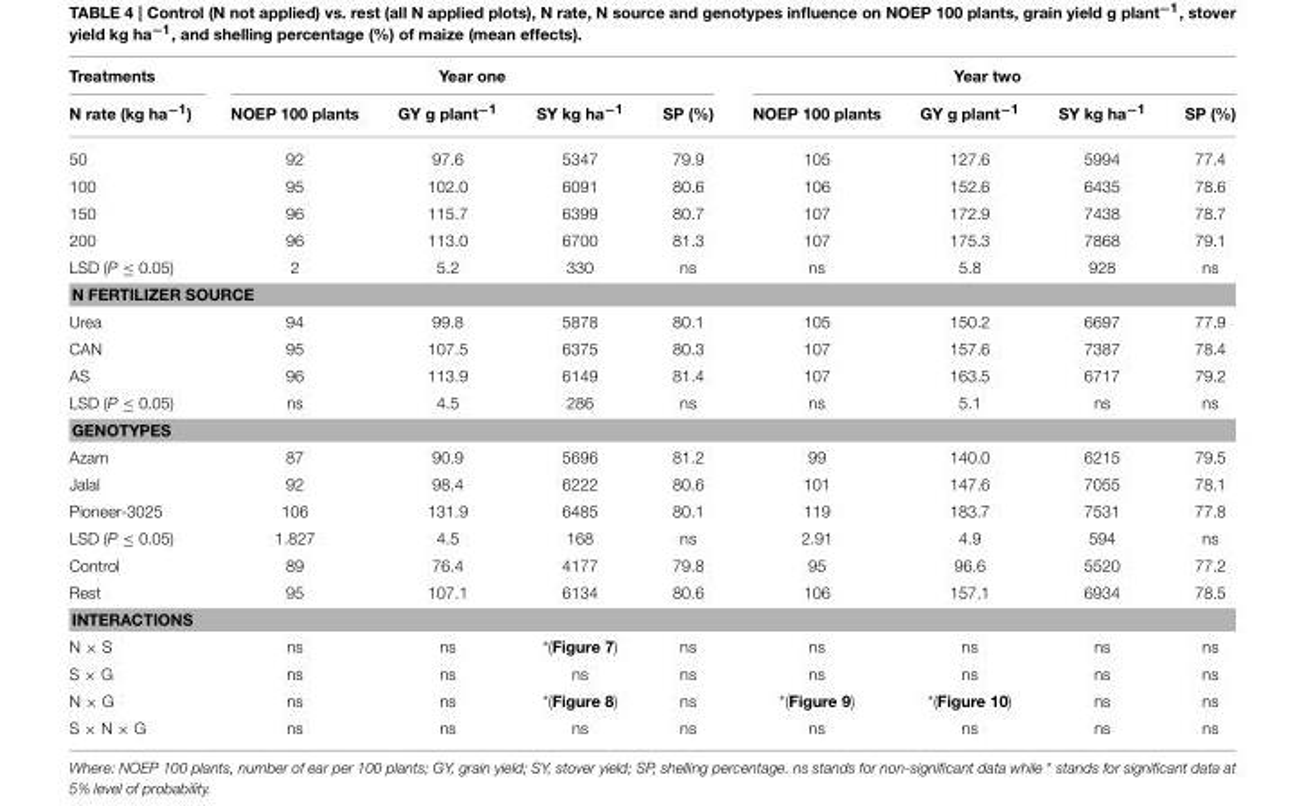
<table><thead><tr><td rowspan="2">Treatments N rate (kg ha<sup>−1</sup>)</td><td colspan="4">Year one</td><td colspan="4">Year two</td></tr><tr><td>NOEP 100 plants</td><td>GY g plant<sup>−1</sup></td><td>SY kg ha<sup>−1</sup></td><td>SP (%)</td><td>NOEP 100 plants</td><td>GY g plant<sup>−1</sup></td><td>SY kg ha<sup>−1</sup></td><td>SP (%)</td></tr></thead><tbody><tr><td>50</td><td>92</td><td>97.6</td><td>5347</td><td>79.9</td><td>105</td><td>127.6</td><td>5994</td><td>77.4</td></tr><tr><td>100</td><td>95</td><td>102.0</td><td>6091</td><td>80.6</td><td>106</td><td>152.6</td><td>6435</td><td>78.6</td></tr><tr><td>150</td><td>96</td><td>115.7</td><td>6399</td><td>80.7</td><td>107</td><td>172.9</td><td>7438</td><td>78.7</td></tr><tr><td>200</td><td>96</td><td>113.0</td><td>6700</td><td>81.3</td><td>107</td><td>175.3</td><td>7868</td><td>79.1</td></tr><tr><td>LSD (P ≤ 0.05)</td><td>2</td><td>5.2</td><td>330</td><td>ns</td><td>ns</td><td>5.8</td><td>928</td><td>ns</td></tr><tr><td colspan="9">N FERTILIZER SOURCE</td></tr><tr><td>Urea</td><td>94</td><td>99.8</td><td>5878</td><td>80.1</td><td>105</td><td>150.2</td><td>6697</td><td>77.9</td></tr><tr><td>CAN</td><td>95</td><td>107.5</td><td>6375</td><td>80.3</td><td>107</td><td>157.6</td><td>7387</td><td>78.4</td></tr><tr><td>AS</td><td>96</td><td>113.9</td><td>6149</td><td>81.4</td><td>107</td><td>163.5</td><td>6717</td><td>79.2</td></tr><tr><td>LSD (P ≤ 0.05)</td><td>ns</td><td>4.5</td><td>286</td><td>ns</td><td>ns</td><td>5.1</td><td>ns</td><td>ns</td></tr><tr><td colspan="9">GENOTYPES</td></tr><tr><td>Azam</td><td>87</td><td>90.9</td><td>5696</td><td>81.2</td><td>99</td><td>140.0</td><td>6215</td><td>79.5</td></tr><tr><td>Jalal</td><td>92</td><td>98.4</td><td>6222</td><td>80.6</td><td>101</td><td>147.6</td><td>7055</td><td>78.1</td></tr><tr><td>Pioneer-3025</td><td>106</td><td>131.9</td><td>6485</td><td>80.1</td><td>119</td><td>183.7</td><td>7531</td><td>77.8</td></tr><tr><td>LSD (P ≤ 0.05)</td><td>1.827</td><td>4.5</td><td>168</td><td>ns</td><td>2.91</td><td>4.9</td><td>594</td><td>ns</td></tr><tr><td>Control</td><td>89</td><td>76.4</td><td>4177</td><td>79.8</td><td>95</td><td>96.6</td><td>5520</td><td>77.2</td></tr><tr><td>Rest</td><td>95</td><td>107.1</td><td>6134</td><td>80.6</td><td>106</td><td>157.1</td><td>6934</td><td>78.5</td></tr><tr><td colspan="9">INTERACTIONS</td></tr><tr><td>N × S</td><td>ns</td><td>ns</td><td>*(Figure 7)</td><td>ns</td><td>ns</td><td>ns</td><td>ns</td><td>ns</td></tr><tr><td>S × G</td><td>ns</td><td>ns</td><td>ns</td><td>ns</td><td>ns</td><td>ns</td><td>ns</td><td>ns</td></tr><tr><td>N × G</td><td>ns</td><td>ns</td><td>*(Figure 8)</td><td>ns</td><td>*(Figure 9)</td><td>*(Figure 10)</td><td>ns</td><td>ns</td></tr><tr><td>S × N × G</td><td>ns</td><td>ns</td><td>ns</td><td>ns</td><td>ns</td><td>ns</td><td>ns</td><td>ns</td></tr></tbody></table>